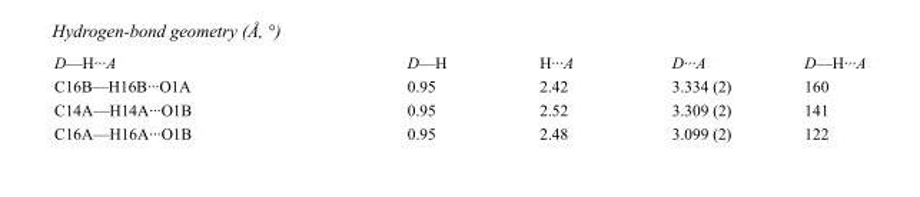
<table><tbody><tr><td>D—H···A</td><td>D—H</td><td>H···A</td><td>D···A</td><td>D—H···A</td></tr><tr><td>C16B—H16B···O1A</td><td>0.95</td><td>2.42</td><td>3.334 (2)</td><td>160</td></tr><tr><td>C14A—H14A···O1B</td><td>0.95</td><td>2.52</td><td>3.309 (2)</td><td>141</td></tr><tr><td>C16A—H16A···O1B</td><td>0.95</td><td>2.48</td><td>3.099 (2)</td><td>122</td></tr></tbody></table>